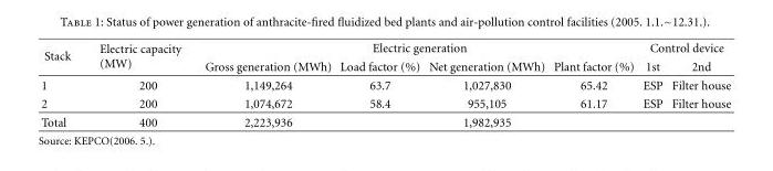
<table><thead><tr><td rowspan="2">Stack</td><td rowspan="2">Electric capacity (MW)</td><td colspan="4">Electric generation</td><td colspan="2">Control device</td></tr><tr><td>Gross generation (MWh)</td><td>Load factor (%)</td><td>Net generation (MWh)</td><td>Plant factor (%)</td><td>1st</td><td>2nd</td></tr></thead><tbody><tr><td>1</td><td>200</td><td>1,149,264</td><td>63.7</td><td>1,027,830</td><td>65.42</td><td>ESP</td><td>Filter house</td></tr><tr><td>2</td><td>200</td><td>1,074,672</td><td>58.4</td><td>955,105</td><td>61.17</td><td>ESP</td><td>Filter house</td></tr><tr><td>Total</td><td>400</td><td>2,223,936</td><td></td><td>1,982,935</td><td></td><td></td><td></td></tr></tbody></table>